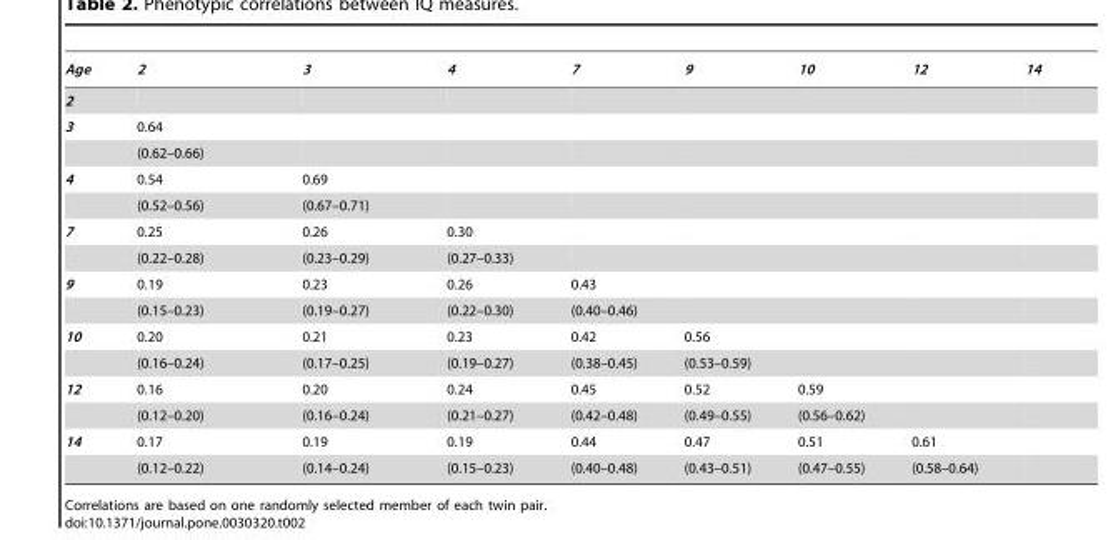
<table><thead><tr><td>Age</td><td>2</td><td>3</td><td>4</td><td>7</td><td>9</td><td>10</td><td>12</td><td>14</td></tr></thead><tbody><tr><td colspan="9">2</td></tr><tr><td rowspan="2">3</td><td>0.64</td><td></td><td></td><td></td><td></td><td></td><td></td><td></td></tr><tr><td>(0.62–0.66)</td><td></td><td></td><td></td><td></td><td></td><td></td><td></td></tr><tr><td rowspan="2">4</td><td>0.54</td><td>0.69</td><td></td><td></td><td></td><td></td><td></td><td></td></tr><tr><td>(0.52–0.56)</td><td>(0.67–0.71)</td><td></td><td></td><td></td><td></td><td></td><td></td></tr><tr><td rowspan="2">7</td><td>0.25</td><td>0.26</td><td>0.30</td><td></td><td></td><td></td><td></td><td></td></tr><tr><td>(0.22–0.28)</td><td>(0.23–0.29)</td><td>(0.27–0.33)</td><td></td><td></td><td></td><td></td><td></td></tr><tr><td rowspan="2">9</td><td>0.19</td><td>0.23</td><td>0.26</td><td>0.43</td><td></td><td></td><td></td><td></td></tr><tr><td>(0.15–0.23)</td><td>(0.19–0.27)</td><td>(0.22–0.30)</td><td>(0.40–0.46)</td><td></td><td></td><td></td><td></td></tr><tr><td rowspan="2">10</td><td>0.20</td><td>0.21</td><td>0.23</td><td>0.42</td><td>0.56</td><td></td><td></td><td></td></tr><tr><td>(0.16–0.24)</td><td>(0.17–0.25)</td><td>(0.19–0.27)</td><td>(0.38–0.45)</td><td>(0.53–0.59)</td><td></td><td></td><td></td></tr><tr><td rowspan="2">12</td><td>0.16</td><td>0.20</td><td>0.24</td><td>0.45</td><td>0.52</td><td>0.59</td><td></td><td></td></tr><tr><td>(0.12–0.20)</td><td>(0.16–0.24)</td><td>(0.21–0.27)</td><td>(0.42–0.48)</td><td>(0.49–0.55)</td><td>(0.56–0.62)</td><td></td><td></td></tr><tr><td rowspan="2">14</td><td>0.17</td><td>0.19</td><td>0.19</td><td>0.44</td><td>0.47</td><td>0.51</td><td>0.61</td><td></td></tr><tr><td>(0.12–0.22)</td><td>(0.14–0.24)</td><td>(0.15–0.23)</td><td>(0.40–0.48)</td><td>(0.43–0.51)</td><td>(0.47–0.55)</td><td>(0.58–0.64)</td><td></td></tr></tbody></table>